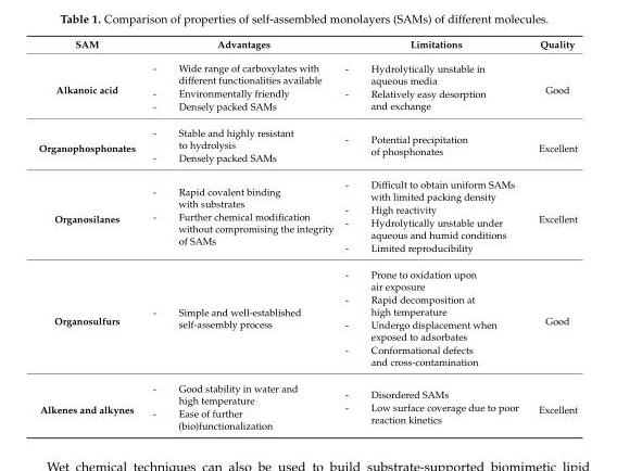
<table><thead><tr><td>SAM</td><td>Advantages</td><td>Limitations</td><td>Quality</td></tr></thead><tbody><tr><td>Alkanoic acid</td><td>- Wide range of carboxylates with different functionalities available - Environmentally friendly - Densely packed SAMs</td><td>- Hydrolytically unstable in aqueous media - Relatively easy desorption and exchange</td><td>Good</td></tr><tr><td>Organophosphonates</td><td>- Stable and highly resistant to hydrolysis - Densely packed SAMs</td><td>- Potential precipitation of phosphonates</td><td>Excellent</td></tr><tr><td>Organosilanes</td><td>- Rapid covalent binding with substrates - Further chemical modification without compromising the integrity of SAMs</td><td>- Difficult to obtain uniform SAMs with limited packing density - High reactivity - Hydrolytically unstable under aqueous and humid conditions - Limited reproducibility</td><td>Excellent</td></tr><tr><td>Organosulfurs</td><td>- Simple and well-established self-assembly process</td><td>- Prone to oxidation upon air exposure - Rapid decomposition at high temperature - Undergo displacement when exposed to adsorbates - Conformational defects and cross-contamination</td><td>Good</td></tr><tr><td>Alkenes and alkynes</td><td>- Good stability in water and high temperature - Ease of further (bio)functionalization</td><td>- Disordered SAMs - Low surface coverage due to poor reaction kinetics</td><td>Excellent</td></tr></tbody></table>